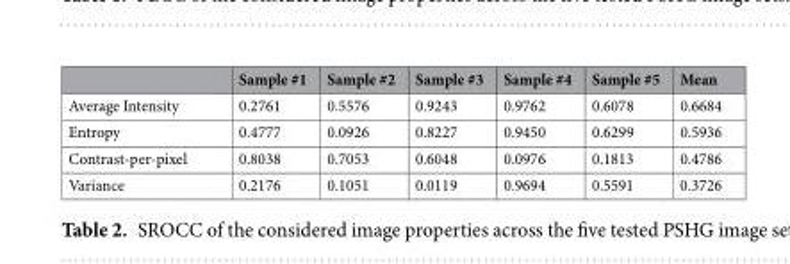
<table><thead><tr><td></td><td>Sample #1</td><td>Sample #2</td><td>Sample #3</td><td>Sample #4</td><td>Sample #5</td><td>Mean</td></tr></thead><tbody><tr><td>Average Intensity</td><td>0.2761</td><td>0.5576</td><td>0.9243</td><td>0.9762</td><td>0.6078</td><td>0.6684</td></tr><tr><td>Entropy</td><td>0.4777</td><td>0.0926</td><td>0.8227</td><td>0.9450</td><td>0.6299</td><td>0.5936</td></tr><tr><td>Contrast-per-pixel</td><td>0.8038</td><td>0.7053</td><td>0.6048</td><td>0.0976</td><td>0.1813</td><td>0.4786</td></tr><tr><td>Variance</td><td>0.2176</td><td>0.1051</td><td>0.0119</td><td>0.9694</td><td>0.5591</td><td>0.3726</td></tr></tbody></table>